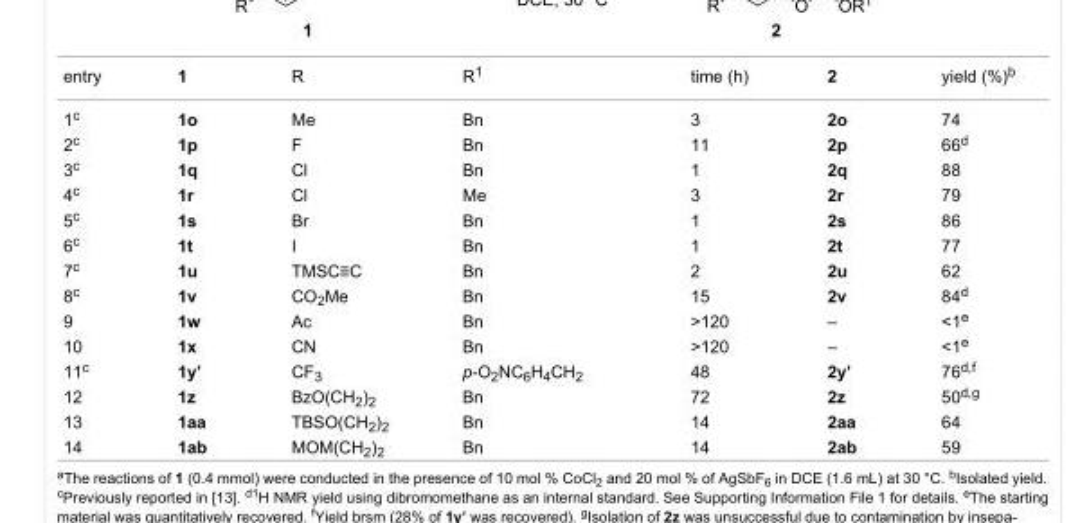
<table><tbody><tr><td>entry</td><td>1</td><td>R</td><td>R<sup>1</sup></td><td>time (h)</td><td>2</td><td>yield (%)<sup>b</sup></td></tr><tr><td>1<sup>c</sup></td><td>1o</td><td>Me</td><td>Bn</td><td>3</td><td>2o</td><td>74</td></tr><tr><td>2<sup>c</sup></td><td>1p</td><td>F</td><td>Bn</td><td>11</td><td>2p</td><td>66<sup>d</sup></td></tr><tr><td>3<sup>c</sup></td><td>1q</td><td>Cl</td><td>Bn</td><td>1</td><td>2q</td><td>88</td></tr><tr><td>4<sup>c</sup></td><td>1r</td><td>Cl</td><td>Me</td><td>3</td><td>2r</td><td>79</td></tr><tr><td>5<sup>c</sup></td><td>1s</td><td>Br</td><td>Bn</td><td>1</td><td>2s</td><td>86</td></tr><tr><td>6<sup>c</sup></td><td>1t</td><td>I</td><td>Bn</td><td>1</td><td>2t</td><td>77</td></tr><tr><td>7<sup>c</sup></td><td>1u</td><td>TMSC≡C</td><td>Bn</td><td>2</td><td>2u</td><td>62</td></tr><tr><td>8<sup>c</sup></td><td>1v</td><td>CO<sub>2</sub>Me</td><td>Bn</td><td>15</td><td>2v</td><td>84<sup>d</sup></td></tr><tr><td>9</td><td>1w</td><td>Ac</td><td>Bn</td><td>&gt;120</td><td>–</td><td>&lt;1<sup>e</sup></td></tr><tr><td>10</td><td>1x</td><td>CN</td><td>Bn</td><td>&gt;120</td><td>–</td><td>&lt;1<sup>e</sup></td></tr><tr><td>11<sup>c</sup></td><td>1y’</td><td>CF<sub>3</sub></td><td>p-O<sub>2</sub>NC<sub>6</sub>H<sub>4</sub>CH<sub>2</sub></td><td>48</td><td>2y’</td><td>76<sup>d,f</sup></td></tr><tr><td>12</td><td>1z</td><td>BzO(CH<sub>2</sub>)<sub>2</sub></td><td>Bn</td><td>72</td><td>2z</td><td>50<sup>d,g</sup></td></tr><tr><td>13</td><td>1aa</td><td>TBSO(CH<sub>2</sub>)<sub>2</sub></td><td>Bn</td><td>14</td><td>2aa</td><td>64</td></tr><tr><td>14</td><td>1ab</td><td>MOM(CH<sub>2</sub>)<sub>2</sub></td><td>Bn</td><td>14</td><td>2ab</td><td>59</td></tr></tbody></table>